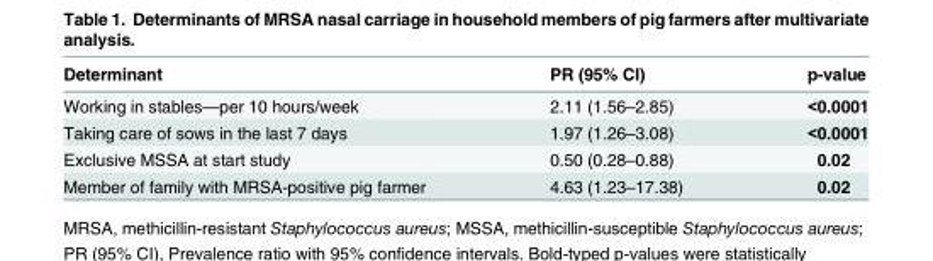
<table><thead><tr><td>Determinant</td><td>PR (95% CI)</td><td>p-value</td></tr></thead><tbody><tr><td>Working in stables—per 10 hours/week</td><td>2.11 (1.56–2.85)</td><td>&lt;0.0001</td></tr><tr><td>Taking care of sows in the last 7 days</td><td>1.97 (1.26–3.08)</td><td>&lt;0.0001</td></tr><tr><td>Exclusive MSSA at start study</td><td>0.50 (0.28–0.88)</td><td>0.02</td></tr><tr><td>Member of family with MRSA-positive pig farmer</td><td>4.63 (1.23–17.38)</td><td>0.02</td></tr></tbody></table>